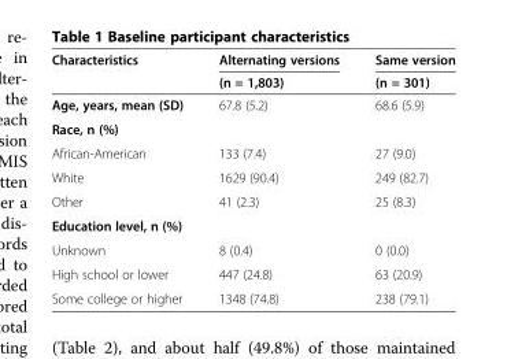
<table><thead><tr><td rowspan="2">Characteristics</td><td rowspan="2">Alternating versions (n = 1,803)</td><td rowspan="2">Same version (n = 301)</td></tr><tr></tr></thead><tbody><tr><td>Age, years, mean (SD)</td><td>67.8 (5.2)</td><td>68.6 (5.9)</td></tr><tr><td colspan="3">Race, n (%)</td></tr><tr><td>African-American</td><td>133 (7.4)</td><td>27 (9.0)</td></tr><tr><td>White</td><td>1629 (90.4)</td><td>249 (82.7)</td></tr><tr><td>Other</td><td>41 (2.3)</td><td>25 (8.3)</td></tr><tr><td colspan="3">Education level, n (%)</td></tr><tr><td>Unknown</td><td>8 (0.4)</td><td>0 (0.0)</td></tr><tr><td>High school or lower</td><td>447 (24.8)</td><td>63 (20.9)</td></tr><tr><td>Some college or higher</td><td>1348 (74.8)</td><td>238 (79.1)</td></tr></tbody></table>